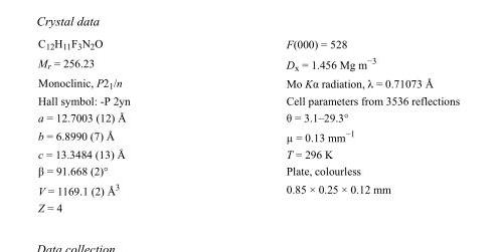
<table><tbody><tr><td>C<sub>12</sub>H<sub>11</sub>F<sub>3</sub>N<sub>2</sub>O</td><td>F(000) = 528</td></tr><tr><td>M<sub>r</sub> = 256.23</td><td>D<sub>x</sub> = 1.456 Mg m<sup>−3</sup></td></tr><tr><td>Monoclinic, P2<sub>1</sub>/n</td><td>Mo Kα radiation, λ = 0.71073 Å</td></tr><tr><td>Hall symbol: -P 2yn</td><td>Cell parameters from 3536 reflections</td></tr><tr><td>a = 12.7003 (12) Å</td><td>θ = 3.1–29.3°</td></tr><tr><td>b = 6.8990 (7) Å</td><td>µ = 0.13 mm<sup>−1</sup></td></tr><tr><td>c = 13.3484 (13) Å</td><td>T = 296 K</td></tr><tr><td>β = 91.668 (2)°</td><td>Plate, colourless</td></tr><tr><td>V = 1169.1 (2) Å<sup>3</sup></td><td>0.85 × 0.25 × 0.12 mm</td></tr><tr><td>Z = 4</td><td></td></tr></tbody></table>